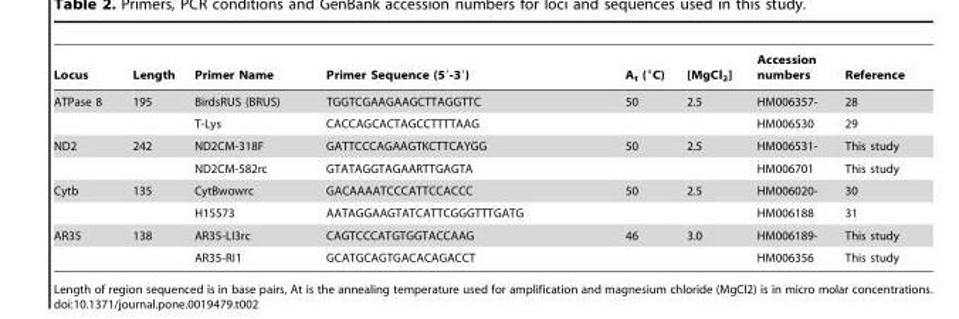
<table><thead><tr><td>Locus</td><td>Length</td><td>Primer Name</td><td>Primer Sequence (5′-3′)</td><td>A<sub>t</sub> (°C)</td><td>[MgCl<sub>2</sub>]</td><td>Accession numbers</td><td>Reference</td></tr></thead><tbody><tr><td rowspan="2">ATPase 8</td><td>195</td><td>BirdsRUS (BRUS)</td><td>TGGTCGAAGAAGCTTAGGTTC</td><td>50</td><td>2.5</td><td>HM006357-</td><td>28</td></tr><tr><td></td><td>T-Lys</td><td>CACCAGCACTAGCCTTTTAAG</td><td></td><td></td><td>HM006530</td><td>29</td></tr><tr><td rowspan="2">ND2</td><td>242</td><td>ND2CM-318F</td><td>GATTCCCAGAAGTKCTTCAYGG</td><td>50</td><td>2.5</td><td>HM006531-</td><td>This study</td></tr><tr><td></td><td>ND2CM-582rc</td><td>GTATAGGTAGAARTTGAGTA</td><td></td><td></td><td>HM006701</td><td>This study</td></tr><tr><td rowspan="2">Cytb</td><td>135</td><td>CytBwowrc</td><td>GACAAAATCCCATTCCACCC</td><td>50</td><td>2.5</td><td>HM006020-</td><td>30</td></tr><tr><td></td><td>H15573</td><td>AATAGGAAGTATCATTCGGGTTTGATG</td><td></td><td></td><td>HM006188</td><td>31</td></tr><tr><td rowspan="2">AR35</td><td>138</td><td>AR35-LI3rc</td><td>CAGTCCCATGTGGTACCAAG</td><td>46</td><td>3.0</td><td>HM006189-</td><td>This study</td></tr><tr><td></td><td>AR35-RI1</td><td>GCATGCAGTGACACAGACCT</td><td></td><td></td><td>HM006356</td><td>This study</td></tr></tbody></table>